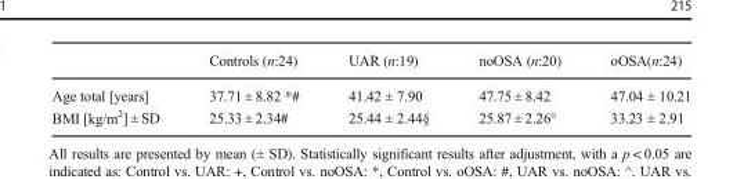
<table><thead><tr><td></td><td>Controls (n:24)</td><td>UAR (n:19)</td><td>noOSA (n:20)</td><td>oOSA(n:24)</td></tr></thead><tbody><tr><td>Age total [years]</td><td>37.71 ± 8.82 *#</td><td>41.42 ± 7.90</td><td>47.75 ± 8.42</td><td>47.04 ± 10.21</td></tr><tr><td>BMI [kg/m<sup>2</sup>] ± SD</td><td>25.33 ± 2.34#</td><td>25.44 ± 2.44§</td><td>25.87 ± 2.26°</td><td>33.23 ± 2.91</td></tr></tbody></table>